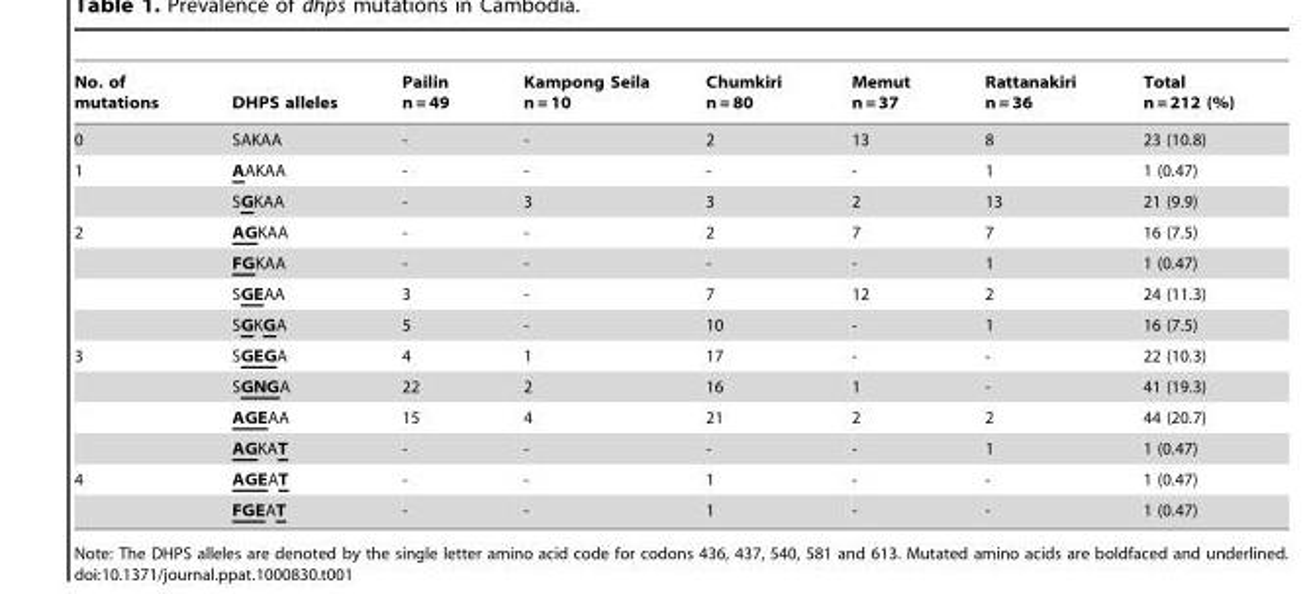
<table><thead><tr><td>No. of mutations</td><td>DHPS alleles</td><td>Pailin n = 49</td><td>Kampong Seila n = 10</td><td>Chumkiri n = 80</td><td>Memut n = 37</td><td>Rattanakiri n = 36</td><td>Total n = 212 (%)</td></tr></thead><tbody><tr><td>0</td><td>SAKAA</td><td>-</td><td>-</td><td>2</td><td>13</td><td>8</td><td>23 (10.8)</td></tr><tr><td rowspan="2">1</td><td>AAKAA</td><td>-</td><td>-</td><td>-</td><td>-</td><td>1</td><td>1 (0.47)</td></tr><tr><td>SGKAA</td><td>-</td><td>3</td><td>3</td><td>2</td><td>13</td><td>21 (9.9)</td></tr><tr><td rowspan="4">2</td><td>AGKAA</td><td>-</td><td>-</td><td>2</td><td>7</td><td>7</td><td>16 (7.5)</td></tr><tr><td>FGKAA</td><td>-</td><td>-</td><td>-</td><td>-</td><td>1</td><td>1 (0.47)</td></tr><tr><td>SGEAA</td><td>3</td><td>-</td><td>7</td><td>12</td><td>2</td><td>24 (11.3)</td></tr><tr><td>SGKGA</td><td>5</td><td>-</td><td>10</td><td>-</td><td>1</td><td>16 (7.5)</td></tr><tr><td rowspan="4">3</td><td>SGEGA</td><td>4</td><td>1</td><td>17</td><td>-</td><td>-</td><td>22 (10.3)</td></tr><tr><td>SGNGA</td><td>22</td><td>2</td><td>16</td><td>1</td><td>-</td><td>41 (19.3)</td></tr><tr><td>AGEAA</td><td>15</td><td>4</td><td>21</td><td>2</td><td>2</td><td>44 (20.7)</td></tr><tr><td>AGKAT</td><td>-</td><td>-</td><td>-</td><td>-</td><td>1</td><td>1 (0.47)</td></tr><tr><td rowspan="2">4</td><td>AGEAT</td><td>-</td><td>-</td><td>1</td><td>-</td><td>-</td><td>1 (0.47)</td></tr><tr><td>FGEAT</td><td>-</td><td>-</td><td>1</td><td>-</td><td>-</td><td>1 (0.47)</td></tr></tbody></table>